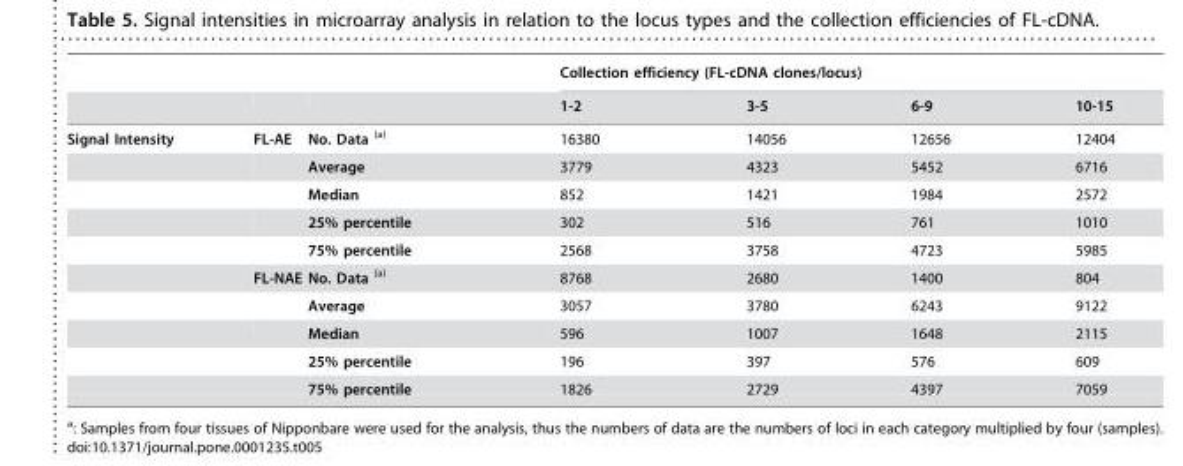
<table><thead><tr><td rowspan="2"></td><td rowspan="2"></td><td rowspan="2"></td><td colspan="4">Collection efficiency (FL-cDNA clones/locus)</td></tr><tr><td>1-2</td><td>3-5</td><td>6-9</td><td>10-15</td></tr></thead><tbody><tr><td rowspan="10">Signal Intensity</td><td>FL-AE</td><td>No. Data (a)</td><td>16380</td><td>14056</td><td>12656</td><td>12404</td></tr><tr><td></td><td>Average</td><td>3779</td><td>4323</td><td>5452</td><td>6716</td></tr><tr><td></td><td>Median</td><td>852</td><td>1421</td><td>1984</td><td>2572</td></tr><tr><td></td><td>25% percentile</td><td>302</td><td>516</td><td>761</td><td>1010</td></tr><tr><td></td><td>75% percentile</td><td>2568</td><td>3758</td><td>4723</td><td>5985</td></tr><tr><td>FL-NAE</td><td>No. Data (a)</td><td>8768</td><td>2680</td><td>1400</td><td>804</td></tr><tr><td></td><td>Average</td><td>3057</td><td>3780</td><td>6243</td><td>9122</td></tr><tr><td></td><td>Median</td><td>596</td><td>1007</td><td>1648</td><td>2115</td></tr><tr><td></td><td>25% percentile</td><td>196</td><td>397</td><td>576</td><td>609</td></tr><tr><td></td><td>75% percentile</td><td>1826</td><td>2729</td><td>4397</td><td>7059</td></tr></tbody></table>